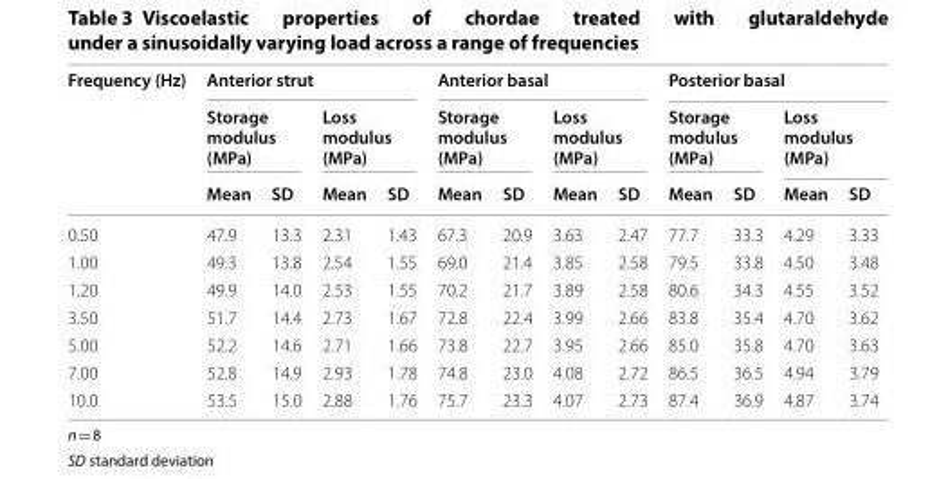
<table><thead><tr><td rowspan="3">Frequency (Hz)</td><td colspan="4">Anterior strut</td><td colspan="4">Anterior basal</td><td colspan="4">Posterior basal</td></tr><tr><td colspan="2">Storage modulus (MPa)</td><td colspan="2">Loss modulus (MPa)</td><td colspan="2">Storage modulus (MPa)</td><td colspan="2">Loss modulus (MPa)</td><td colspan="2">Storage modulus (MPa)</td><td colspan="2">Loss modulus (MPa)</td></tr><tr><td>Mean</td><td>SD</td><td>Mean</td><td>SD</td><td>Mean</td><td>SD</td><td>Mean</td><td>SD</td><td>Mean</td><td>SD</td><td>Mean</td><td>SD</td></tr></thead><tbody><tr><td>0.50</td><td>47.9</td><td>13.3</td><td>2.31</td><td>1.43</td><td>67.3</td><td>20.9</td><td>3.63</td><td>2.47</td><td>77.7</td><td>33.3</td><td>4.29</td><td>3.33</td></tr><tr><td>1.00</td><td>49.3</td><td>13.8</td><td>2.54</td><td>1.55</td><td>69.0</td><td>21.4</td><td>3.85</td><td>2.58</td><td>79.5</td><td>33.8</td><td>4.50</td><td>3.48</td></tr><tr><td>1.20</td><td>49.9</td><td>14.0</td><td>2.53</td><td>1.55</td><td>70.2</td><td>21.7</td><td>3.89</td><td>2.58</td><td>80.6</td><td>34.3</td><td>4.55</td><td>3.52</td></tr><tr><td>3.50</td><td>51.7</td><td>14.4</td><td>2.73</td><td>1.67</td><td>72.8</td><td>22.4</td><td>3.99</td><td>2.66</td><td>83.8</td><td>35.4</td><td>4.70</td><td>3.62</td></tr><tr><td>5.00</td><td>52.2</td><td>14.6</td><td>2.71</td><td>1.66</td><td>73.8</td><td>22.7</td><td>3.95</td><td>2.66</td><td>85.0</td><td>35.8</td><td>4.70</td><td>3.63</td></tr><tr><td>7.00</td><td>52.8</td><td>14.9</td><td>2.93</td><td>1.78</td><td>74.8</td><td>23.0</td><td>4.08</td><td>2.72</td><td>86.5</td><td>36.5</td><td>4.94</td><td>3.79</td></tr><tr><td>10.0</td><td>53.5</td><td>15.0</td><td>2.88</td><td>1.76</td><td>75.7</td><td>23.3</td><td>4.07</td><td>2.73</td><td>87.4</td><td>36.9</td><td>4.87</td><td>3.74</td></tr></tbody></table>